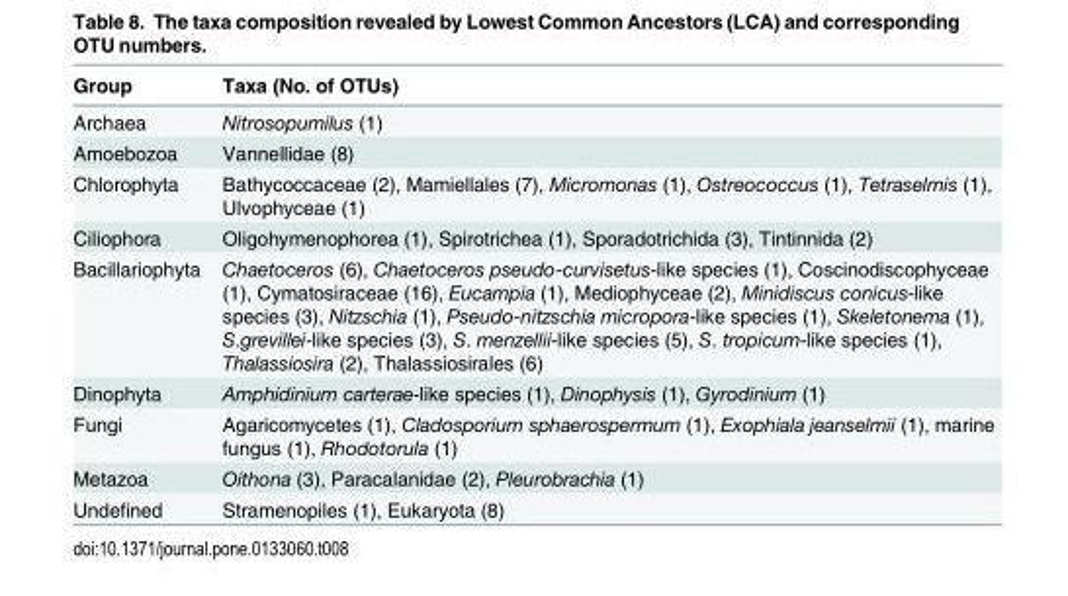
<table><thead><tr><td>Group</td><td>Taxa (No. of OTUs)</td></tr></thead><tbody><tr><td>Archaea</td><td>Nitrosopumilus (1)</td></tr><tr><td>Amoebozoa</td><td>Vannellidae (8)</td></tr><tr><td>Chlorophyta</td><td>Bathycoccaceae (2), Mamiellales (7), Micromonas (1), Ostreococcus (1), Tetraselmis (1), Ulvophyceae (1)</td></tr><tr><td>Ciliophora</td><td>Oligohymenophorea (1), Spirotrichea (1), Sporadotrichida (3), Tintinnida (2)</td></tr><tr><td>Bacillariophyta</td><td>Chaetoceros (6), Chaetoceros pseudo-curvisetus-like species (1), Coscinodiscophyceae (1), Cymatosiraceae (16), Eucampia (1), Mediophyceae (2), Minidiscus conicus-like species (3), Nitzschia (1), Pseudo-nitzschia micropora-like species (1), Skeletonema (1), S.grevillei-like species (3), S. menzellii-like species (5), S. tropicum-like species (1), Thalassiosira (2), Thalassiosirales (6)</td></tr><tr><td>Dinophyta</td><td>Amphidinium carterae-like species (1), Dinophysis (1), Gyrodinium (1)</td></tr><tr><td>Fungi</td><td>Agaricomycetes (1), Cladosporium sphaerospermum (1), Exophiala jeanselmii (1), marine fungus (1), Rhodotorula (1)</td></tr><tr><td>Metazoa</td><td>Oithona (3), Paracalanidae (2), Pleurobrachia (1)</td></tr><tr><td>Undefined</td><td>Stramenopiles (1), Eukaryota (8)</td></tr></tbody></table>